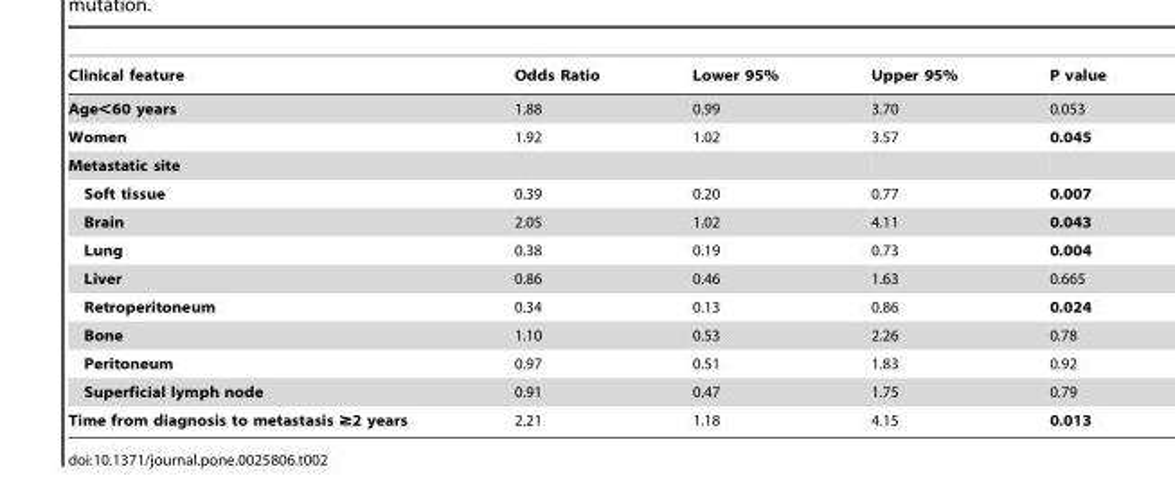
<table><thead><tr><td>Clinical feature</td><td>Odds Ratio</td><td>Lower 95%</td><td>Upper 95%</td><td>P value</td></tr></thead><tbody><tr><td>Age&lt;60 years</td><td>1.88</td><td>0.99</td><td>3.70</td><td>0.053</td></tr><tr><td>Women</td><td>1.92</td><td>1.02</td><td>3.57</td><td>0.045</td></tr><tr><td colspan="5">Metastatic site</td></tr><tr><td>Soft tissue</td><td>0.39</td><td>0.20</td><td>0.77</td><td>0.007</td></tr><tr><td>Brain</td><td>2.05</td><td>1.02</td><td>4.11</td><td>0.043</td></tr><tr><td>Lung</td><td>0.38</td><td>0.19</td><td>0.73</td><td>0.004</td></tr><tr><td>Liver</td><td>0.86</td><td>0.46</td><td>1.63</td><td>0.665</td></tr><tr><td>Retroperitoneum</td><td>0.34</td><td>0.13</td><td>0.86</td><td>0.024</td></tr><tr><td>Bone</td><td>1.10</td><td>0.53</td><td>2.26</td><td>0.78</td></tr><tr><td>Peritoneum</td><td>0.97</td><td>0.51</td><td>1.83</td><td>0.92</td></tr><tr><td>Superficial lymph node</td><td>0.91</td><td>0.47</td><td>1.75</td><td>0.79</td></tr><tr><td>Time from diagnosis to metastasis ≥2 years</td><td>2.21</td><td>1.18</td><td>4.15</td><td>0.013</td></tr></tbody></table>